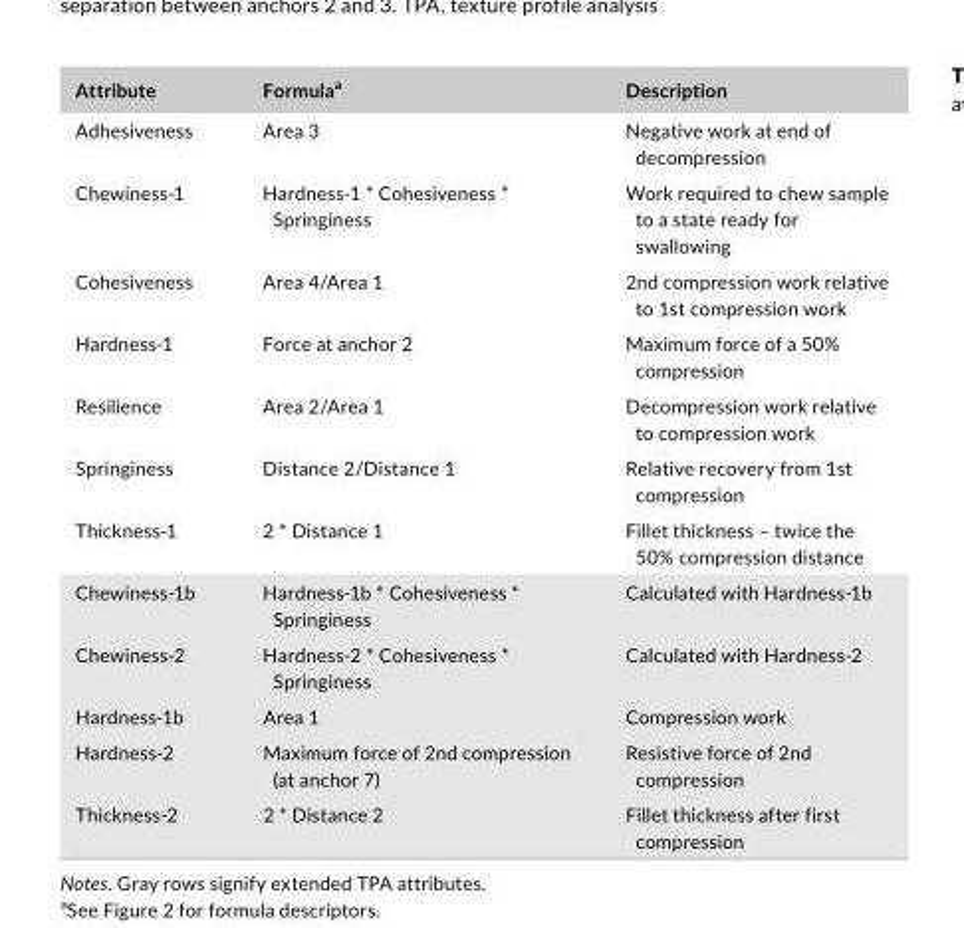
<table><thead><tr><td>Attribute</td><td>Formula<sup>a</sup></td><td>Description</td></tr></thead><tbody><tr><td>Adhesiveness</td><td>Area 3</td><td>Negative work at end of decompression</td></tr><tr><td>Chewiness- 1</td><td>Hardness- 1 * Cohesiveness * Springiness</td><td>Work required to chew sample to a state ready for swallowing</td></tr><tr><td>Cohesiveness</td><td>Area 4/Area 1</td><td>2nd compression work relative to 1st compression work</td></tr><tr><td>Hardness- 1</td><td>Force at anchor 2</td><td>Maximum force of a 50% compression</td></tr><tr><td>Resilience</td><td>Area 2/Area 1</td><td>Decompression work relative to compression work</td></tr><tr><td>Springiness</td><td>Distance 2/Distance 1</td><td>Relative recovery from 1st compression</td></tr><tr><td>Thickness- 1</td><td>2 * Distance 1</td><td>Fillet thickness – twice the 50% compression distance</td></tr><tr><td>Chewiness- 1b</td><td>Hardness- 1b * Cohesiveness * Springiness</td><td>Calculated with Hardness- 1b</td></tr><tr><td>Chewiness- 2</td><td>Hardness- 2 * Cohesiveness * Springiness</td><td>Calculated with Hardness- 2</td></tr><tr><td>Hardness- 1b</td><td>Area 1</td><td>Compression work</td></tr><tr><td>Hardness- 2</td><td>Maximum force of 2nd compression (at anchor 7)</td><td>Resistive force of 2nd compression</td></tr><tr><td>Thickness- 2</td><td>2 * Distance 2</td><td>Fillet thickness after first compression</td></tr></tbody></table>